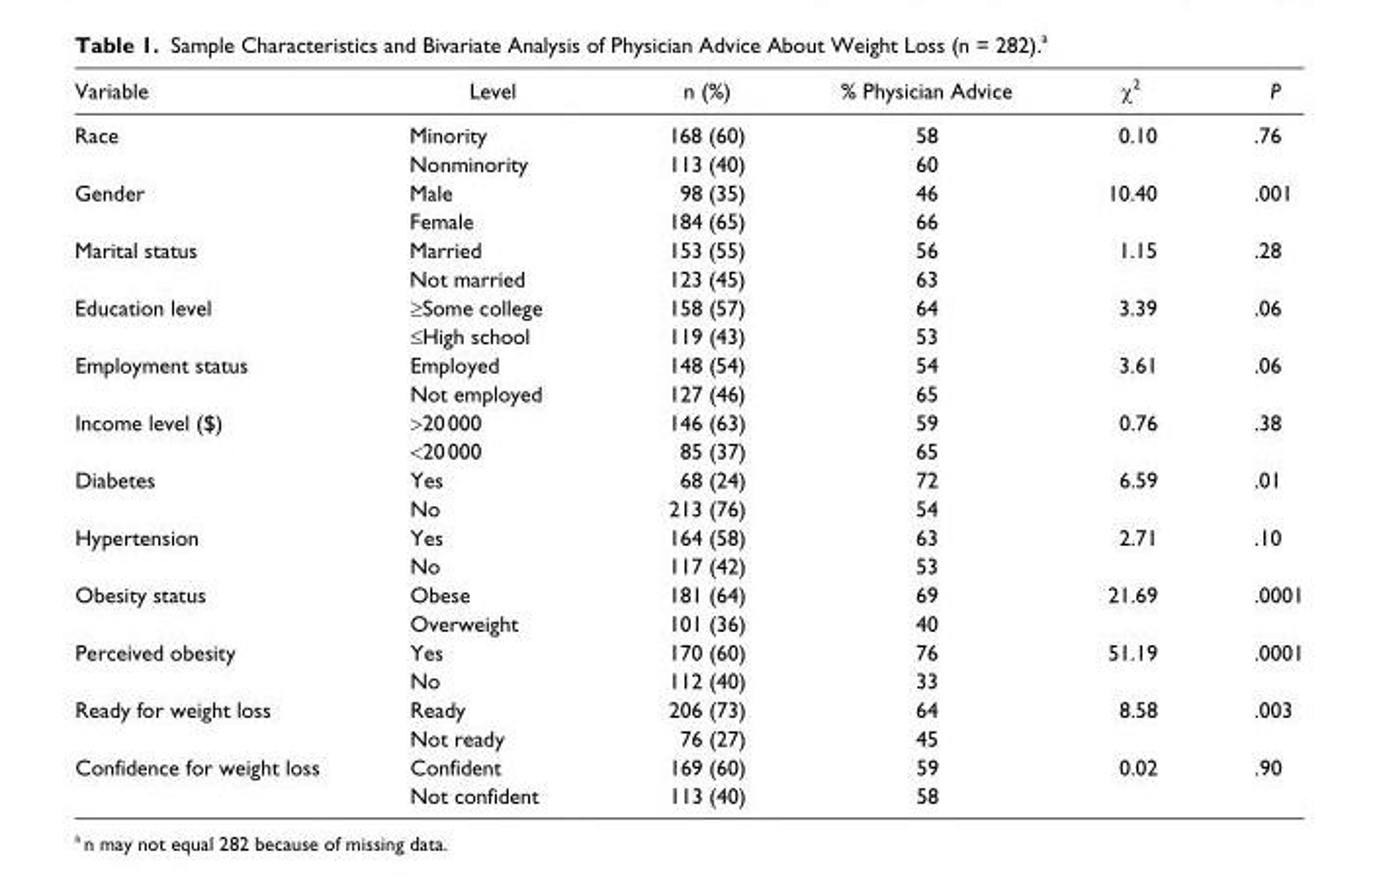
<table><thead><tr><td>Variable</td><td>Level</td><td>n (%)</td><td>% Physician Advice</td><td>χ<sup>2</sup></td><td>P</td></tr></thead><tbody><tr><td rowspan="2">Race</td><td>Minority</td><td>168 (60)</td><td>58</td><td>0.10</td><td>.76</td></tr><tr><td>Nonminority</td><td>113 (40)</td><td>60</td><td></td><td></td></tr><tr><td rowspan="2">Gender</td><td>Male</td><td>98 (35)</td><td>46</td><td>10.40</td><td>.001</td></tr><tr><td>Female</td><td>184 (65)</td><td>66</td><td></td><td></td></tr><tr><td rowspan="2">Marital status</td><td>Married</td><td>153 (55)</td><td>56</td><td>1.15</td><td>.28</td></tr><tr><td>Not married</td><td>123 (45)</td><td>63</td><td></td><td></td></tr><tr><td rowspan="2">Education level</td><td>≥Some college</td><td>158 (57)</td><td>64</td><td>3.39</td><td>.06</td></tr><tr><td>≤High school</td><td>119 (43)</td><td>53</td><td></td><td></td></tr><tr><td rowspan="2">Employment status</td><td>Employed</td><td>148 (54)</td><td>54</td><td>3.61</td><td>.06</td></tr><tr><td>Not employed</td><td>127 (46)</td><td>65</td><td></td><td></td></tr><tr><td rowspan="2">Income level ($)</td><td>&gt;20 000</td><td>146 (63)</td><td>59</td><td>0.76</td><td>.38</td></tr><tr><td>&lt;20 000</td><td>85 (37)</td><td>65</td><td></td><td></td></tr><tr><td rowspan="2">Diabetes</td><td>Yes</td><td>68 (24)</td><td>72</td><td>6.59</td><td>.01</td></tr><tr><td>No</td><td>213 (76)</td><td>54</td><td></td><td></td></tr><tr><td rowspan="2">Hypertension</td><td>Yes</td><td>164 (58)</td><td>63</td><td>2.71</td><td>.10</td></tr><tr><td>No</td><td>117 (42)</td><td>53</td><td></td><td></td></tr><tr><td rowspan="2">Obesity status</td><td>Obese</td><td>181 (64)</td><td>69</td><td>21.69</td><td>.0001</td></tr><tr><td>Overweight</td><td>101 (36)</td><td>40</td><td></td><td></td></tr><tr><td rowspan="2">Perceived obesity</td><td>Yes</td><td>170 (60)</td><td>76</td><td>51.19</td><td>.0001</td></tr><tr><td>No</td><td>112 (40)</td><td>33</td><td></td><td></td></tr><tr><td rowspan="2">Ready for weight loss</td><td>Ready</td><td>206 (73)</td><td>64</td><td>8.58</td><td>.003</td></tr><tr><td>Not ready</td><td>76 (27)</td><td>45</td><td></td><td></td></tr><tr><td rowspan="2">Confidence for weight loss</td><td>Confident</td><td>169 (60)</td><td>59</td><td>0.02</td><td>.90</td></tr><tr><td>Not confident</td><td>113 (40)</td><td>58</td><td></td><td></td></tr></tbody></table>